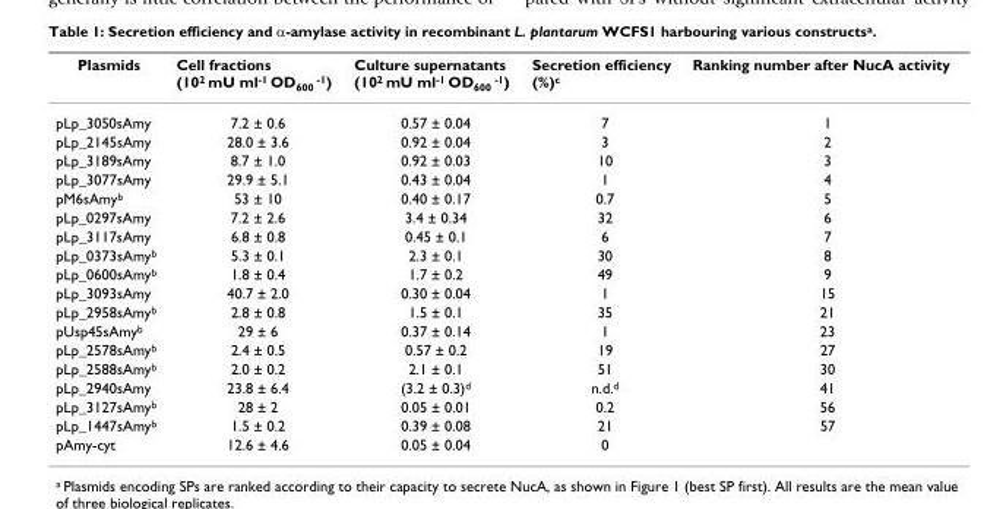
<table><thead><tr><td>Plasmids</td><td>Cell fractions (10<sup>2</sup> mU ml<sup>-1</sup> OD<sub>600</sub> <sup>-1</sup>)</td><td>Culture supernatants (10<sup>2</sup> mU ml<sup>-1</sup> OD<sub>600</sub> <sup>-1</sup>)</td><td>Secretion efficiency (%)<sup>c</sup></td><td>Ranking number after NucA activity</td></tr></thead><tbody><tr><td>pLp_3050sAmy</td><td>7.2 ± 0.6</td><td>0.57 ± 0.04</td><td>7</td><td>1</td></tr><tr><td>pLp_2145sAmy</td><td>28.0 ± 3.6</td><td>0.92 ± 0.04</td><td>3</td><td>2</td></tr><tr><td>pLp_3189sAmy</td><td>8.7 ± 1.0</td><td>0.92 ± 0.03</td><td>10</td><td>3</td></tr><tr><td>pLp_3077sAmy</td><td>29.9 ± 5.1</td><td>0.43 ± 0.04</td><td>1</td><td>4</td></tr><tr><td>pM6sAmy<sup>b</sup></td><td>53 ± 10</td><td>0.40 ± 0.17</td><td>0.7</td><td>5</td></tr><tr><td>pLp_0297sAmy</td><td>7.2 ± 2.6</td><td>3.4 ± 0.34</td><td>32</td><td>6</td></tr><tr><td>pLp_3117sAmy</td><td>6.8 ± 0.8</td><td>0.45 ± 0.1</td><td>6</td><td>7</td></tr><tr><td>pLp_0373sAmy<sup>b</sup></td><td>5.3 ± 0.1</td><td>2.3 ± 0.1</td><td>30</td><td>8</td></tr><tr><td>pLp_0600sAmy<sup>b</sup></td><td>1.8 ± 0.4</td><td>1.7 ± 0.2</td><td>49</td><td>9</td></tr><tr><td>pLp_3093sAmy</td><td>40.7 ± 2.0</td><td>0.30 ± 0.04</td><td>1</td><td>15</td></tr><tr><td>pLp_2958sAmy<sup>b</sup></td><td>2.8 ± 0.8</td><td>1.5 ± 0.1</td><td>35</td><td>21</td></tr><tr><td>pUsp45sAmy<sup>b</sup></td><td>29 ± 6</td><td>0.37 ± 0.14</td><td>1</td><td>23</td></tr><tr><td>pLp_2578sAmy<sup>b</sup></td><td>2.4 ± 0.5</td><td>0.57 ± 0.2</td><td>19</td><td>27</td></tr><tr><td>pLp_2588sAmy<sup>b</sup></td><td>2.0 ± 0.2</td><td>2.1 ± 0.1</td><td>51</td><td>30</td></tr><tr><td>pLp_2940sAmy</td><td>23.8 ± 6.4</td><td>(3.2 ± 0.3)<sup>d</sup></td><td>n.d.<sup>d</sup></td><td>41</td></tr><tr><td>pLp_3127sAmy<sup>b</sup></td><td>28 ± 2</td><td>0.05 ± 0.01</td><td>0.2</td><td>56</td></tr><tr><td>pLp_1447sAmy<sup>b</sup></td><td>1.5 ± 0.2</td><td>0.39 ± 0.08</td><td>21</td><td>57</td></tr><tr><td>pAmy-cyt</td><td>12.6 ± 4.6</td><td>0.05 ± 0.04</td><td>0</td><td></td></tr></tbody></table>